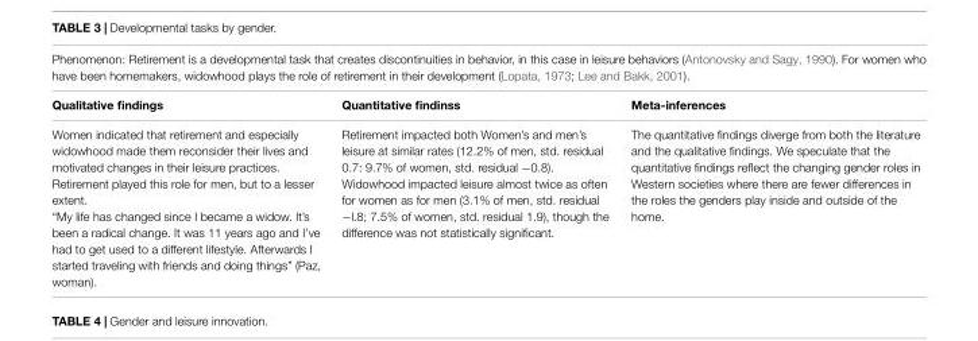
<table><thead><tr><td colspan="3">Phenomenon: Retirement is a developmental task that creates discontinuities in behavior, in this case in leisure behaviors (Antonovsky and Sagy, 1990). For women who have been homemakers, widowhood plays the role of retirement in their development (Lopata, 1973; Lee and Bakk, 2001).</td></tr><tr><td>Qualitative findings</td><td>Quantitative findinss</td><td>Meta-inferences</td></tr></thead><tbody><tr><td>Women indicated that retirement and especially widowhood made them reconsider their lives and motivated changes in their leisure practices. Retirement played this role for men, but to a lesser extent. “My life has changed since I became a widow. It’s been a radical change. It was 11 years ago and I’ve had to get used to a different lifestyle. Afterwards I started traveling with friends and doing things” (Paz, woman).</td><td>Retirement impacted both Women’s and men’s leisure at similar rates (12.2% of men, std. residual 0.7: 9.7% of women, std. residual −0.8). Widowhood impacted leisure almost twice as often for women as for men (3.1% of men, std. residual −l.8; 7.5% of women, std. residual 1.9), though the difference was not statistically significant.</td><td>The quantitative findings diverge from both the literature and the qualitative findings. We speculate that the quantitative findings reflect the changing gender roles in Western societies where there are fewer differences in the roles the genders play inside and outside of the home.</td></tr></tbody></table>